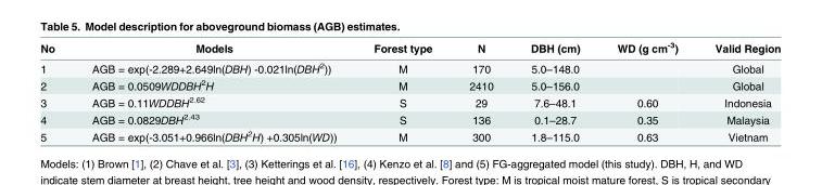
<table><thead><tr><td>No</td><td>Models</td><td>Forest type</td><td>N</td><td>DBH (cm)</td><td>WD (g cm<sup>-3</sup>)</td><td>Valid Region</td></tr></thead><tbody><tr><td>1</td><td>AGB = exp(-2.289+2.649ln(DBH) -0.021ln(DBH<sup>2</sup>))</td><td>M</td><td>170</td><td>5.0–148.0</td><td></td><td>Global</td></tr><tr><td>2</td><td>AGB = 0.0509WDDBH<sup>2</sup>H</td><td>M</td><td>2410</td><td>5.0–156.0</td><td></td><td>Global</td></tr><tr><td>3</td><td>AGB = 0.11WDDBH<sup>2.62</sup></td><td>S</td><td>29</td><td>7.6–48.1</td><td>0.60</td><td>Indonesia</td></tr><tr><td>4</td><td>AGB = 0.0829DBH<sup>2.43</sup></td><td>S</td><td>136</td><td>0.1–28.7</td><td>0.35</td><td>Malaysia</td></tr><tr><td>5</td><td>AGB = exp(-3.051+0.966ln(DBH<sup>2</sup>H) +0.305ln(WD))</td><td>M</td><td>300</td><td>1.8–115.0</td><td>0.63</td><td>Vietnam</td></tr></tbody></table>